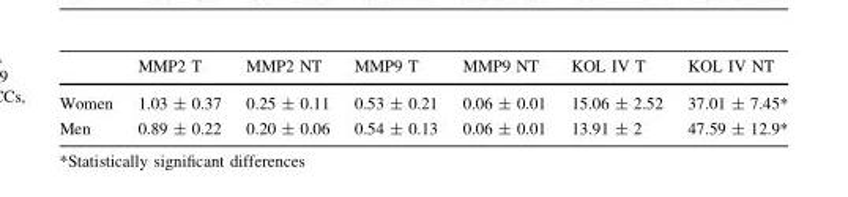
<table><thead><tr><td></td><td>MMP2 T</td><td>MMP2 NT</td><td>MMP9 T</td><td>MMP9 NT</td><td>KOL IV T</td><td>KOL IV NT</td></tr></thead><tbody><tr><td>Women</td><td>1.03 ± 0.37</td><td>0.25 ± 0.11</td><td>0.53 ± 0.21</td><td>0.06 ± 0.01</td><td>15.06 ± 2.52</td><td>37.01 ± 7.45*</td></tr><tr><td>Men</td><td>0.89 ± 0.22</td><td>0.20 ± 0.06</td><td>0.54 ± 0.13</td><td>0.06 ± 0.01</td><td>13.91 ± 2</td><td>47.59 ± 12.9*</td></tr></tbody></table>